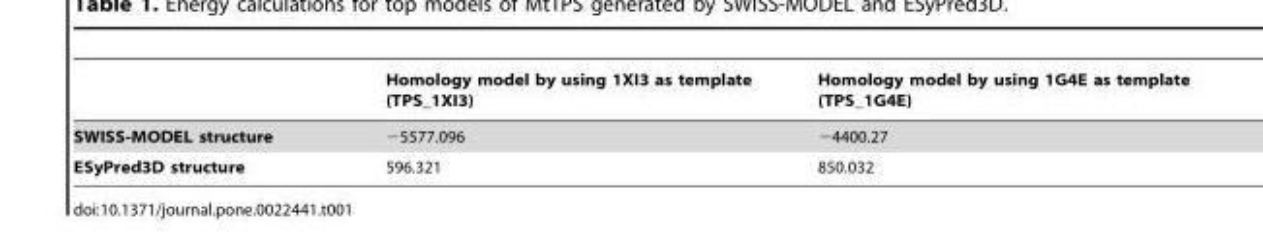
<table><thead><tr><td></td><td>Homology model by using 1XI3 as template (TPS_1XI3)</td><td>Homology model by using 1G4E as template (TPS_1G4E)</td></tr></thead><tbody><tr><td>SWISS-MODEL structure</td><td>−5577.096</td><td>−4400.27</td></tr><tr><td>ESyPred3D structure</td><td>596.321</td><td>850.032</td></tr></tbody></table>